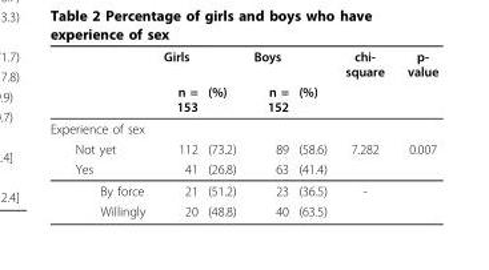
<table><thead><tr><td rowspan="2"></td><td rowspan="2">Girls n = 153</td><td rowspan="2">(%)</td><td rowspan="2">Boys n = 152</td><td rowspan="2">(%)</td><td rowspan="2">chi- square</td><td rowspan="2">p- value</td></tr><tr></tr></thead><tbody><tr><td colspan="7">Experience of sex</td></tr><tr><td>Not yet</td><td>112</td><td>(73.2)</td><td>89</td><td>(58.6)</td><td>7.282</td><td>0.007</td></tr><tr><td>Yes</td><td>41</td><td>(26.8)</td><td>63</td><td>(41.4)</td><td></td><td></td></tr><tr><td>By force</td><td>21</td><td>(51.2)</td><td>23</td><td>(36.5)</td><td>-</td><td></td></tr><tr><td>Willingly</td><td>20</td><td>(48.8)</td><td>40</td><td>(63.5)</td><td></td><td></td></tr></tbody></table>